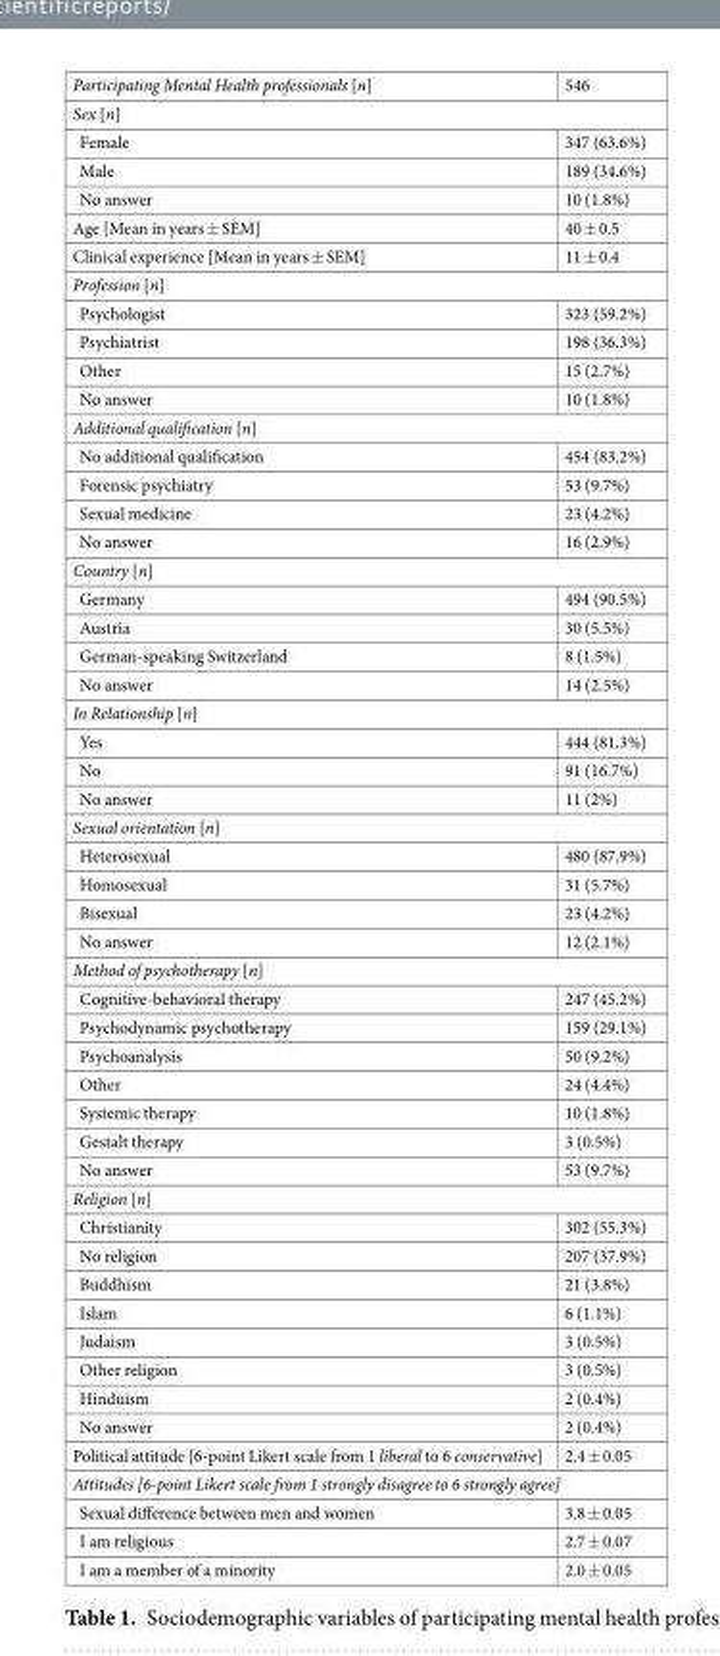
<table><tbody><tr><td>Participating Mental Health professionals [n]</td><td>546</td></tr><tr><td colspan="2">Sex [n]</td></tr><tr><td>Female</td><td>347 (63.6%)</td></tr><tr><td>Male</td><td>189 (34.6%)</td></tr><tr><td>No answer</td><td>10 (1.8%)</td></tr><tr><td>Age [Mean in years ± SEM]</td><td>40 ± 0.5</td></tr><tr><td>Clinical experience [Mean in years ± SEM]</td><td>11 ± 0.4</td></tr><tr><td colspan="2">Profession [n]</td></tr><tr><td>Psychologist</td><td>323 (59.2%)</td></tr><tr><td>Psychiatrist</td><td>198 (36.3%)</td></tr><tr><td>Other</td><td>15 (2.7%)</td></tr><tr><td>No answer</td><td>10 (1.8%)</td></tr><tr><td colspan="2">Additional qualification [n]</td></tr><tr><td>No additional qualification</td><td>454 (83.2%)</td></tr><tr><td>Forensic psychiatry</td><td>53 (9.7%)</td></tr><tr><td>Sexual medicine</td><td>23 (4.2%)</td></tr><tr><td>No answer</td><td>16 (2.9%)</td></tr><tr><td colspan="2">Country [n]</td></tr><tr><td>Germany</td><td>494 (90.5%)</td></tr><tr><td>Austria</td><td>30 (5.5%)</td></tr><tr><td>German-speaking Switzerland</td><td>8 (1.5%)</td></tr><tr><td>No answer</td><td>14 (2.5%)</td></tr><tr><td colspan="2">In Relationship [n]</td></tr><tr><td>Yes</td><td>444 (81.3%)</td></tr><tr><td>No</td><td>91 (16.7%)</td></tr><tr><td>No answer</td><td>11 (2%)</td></tr><tr><td colspan="2">Sexual orientation [n]</td></tr><tr><td>Heterosexual</td><td>480 (87.9%)</td></tr><tr><td>Homosexual</td><td>31 (5.7%)</td></tr><tr><td>Bisexual</td><td>23 (4.2%)</td></tr><tr><td>No answer</td><td>12 (2.1%)</td></tr><tr><td colspan="2">Method of psychotherapy [n]</td></tr><tr><td>Cognitive-behavioral therapy</td><td>247 (45.2%)</td></tr><tr><td>Psychodynamic psychotherapy</td><td>159 (29.1%)</td></tr><tr><td>Psychoanalysis</td><td>50 (9.2%)</td></tr><tr><td>Other</td><td>24 (4.4%)</td></tr><tr><td>Systemic therapy</td><td>10 (1.8%)</td></tr><tr><td>Gestalt therapy</td><td>3 (0.5%)</td></tr><tr><td>No answer</td><td>53 (9.7%)</td></tr><tr><td colspan="2">Religion [n]</td></tr><tr><td>Christianity</td><td>302 (55.3%)</td></tr><tr><td>No religion</td><td>207 (37.9%)</td></tr><tr><td>Buddhism</td><td>21 (3.8%)</td></tr><tr><td>Islam</td><td>6 (1.1%)</td></tr><tr><td>Judaism</td><td>3 (0.5%)</td></tr><tr><td>Other religion</td><td>3 (0.5%)</td></tr><tr><td>Hinduism</td><td>2 (0.4%)</td></tr><tr><td>No answer</td><td>2 (0.4%)</td></tr><tr><td>Political attitude [6-point Likert scale from 1 liberal to 6 conservative]</td><td>2.4 ± 0.05</td></tr><tr><td colspan="2">Attitudes [6-point Likert scale from 1 strongly disagree to 6 strongly agree]</td></tr><tr><td>Sexual difference between men and women</td><td>3.8 ± 0.05</td></tr><tr><td>I am religious</td><td>2.7 ± 0.07</td></tr><tr><td>I am a member of a minority</td><td>2.0 ± 0.05</td></tr></tbody></table>